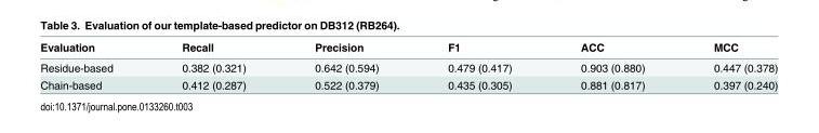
<table><thead><tr><td>Evaluation</td><td>Recall</td><td>Precision</td><td>F1</td><td>ACC</td><td>MCC</td></tr></thead><tbody><tr><td>Residue-based</td><td>0.382 (0.321)</td><td>0.642 (0.594)</td><td>0.479 (0.417)</td><td>0.903 (0.880)</td><td>0.447 (0.378)</td></tr><tr><td>Chain-based</td><td>0.412 (0.287)</td><td>0.522 (0.379)</td><td>0.435 (0.305)</td><td>0.881 (0.817)</td><td>0.397 (0.240)</td></tr></tbody></table>